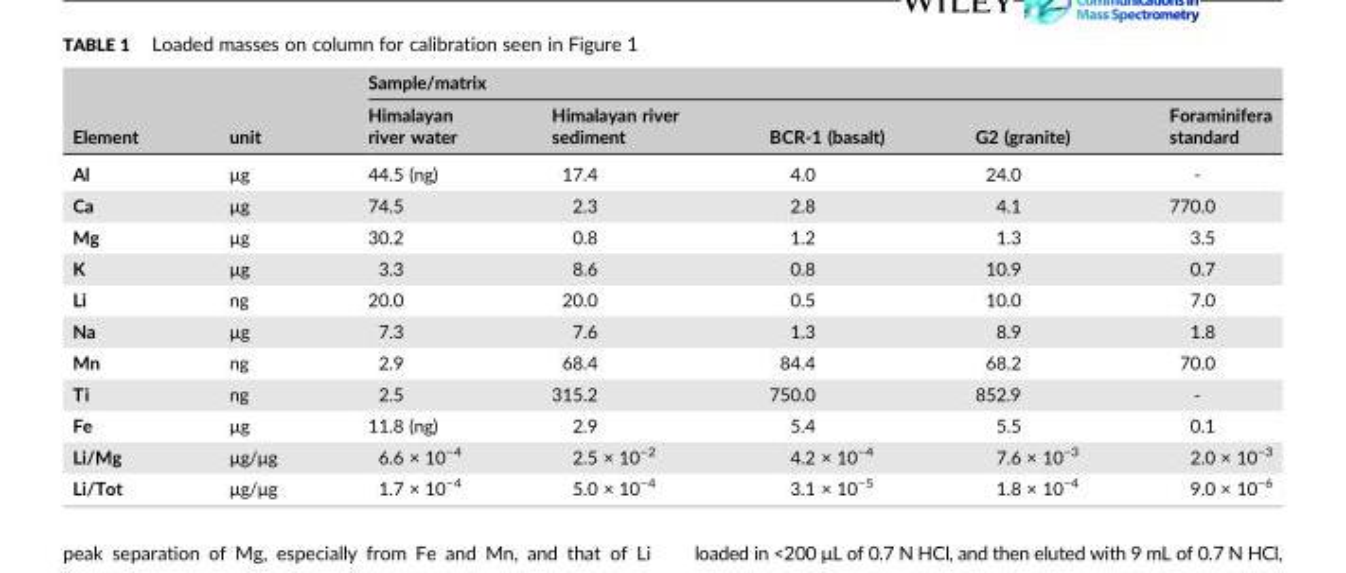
<table><thead><tr><td rowspan="2">Element</td><td rowspan="2">unit</td><td colspan="5">Sample/matrix</td></tr><tr><td>Himalayan river water</td><td>Himalayan river sediment</td><td>BCR‐1 (basalt)</td><td>G2 (granite)</td><td>Foraminifera standard</td></tr></thead><tbody><tr><td>Al</td><td>μg</td><td>44.5 (ng)</td><td>17.4</td><td>4.0</td><td>24.0</td><td>‐</td></tr><tr><td>Ca</td><td>μg</td><td>74.5</td><td>2.3</td><td>2.8</td><td>4.1</td><td>770.0</td></tr><tr><td>Mg</td><td>μg</td><td>30.2</td><td>0.8</td><td>1.2</td><td>1.3</td><td>3.5</td></tr><tr><td>K</td><td>μg</td><td>3.3</td><td>8.6</td><td>0.8</td><td>10.9</td><td>0.7</td></tr><tr><td>Li</td><td>ng</td><td>20.0</td><td>20.0</td><td>0.5</td><td>10.0</td><td>7.0</td></tr><tr><td>Na</td><td>μg</td><td>7.3</td><td>7.6</td><td>1.3</td><td>8.9</td><td>1.8</td></tr><tr><td>Mn</td><td>ng</td><td>2.9</td><td>68.4</td><td>84.4</td><td>68.2</td><td>70.0</td></tr><tr><td>Ti</td><td>ng</td><td>2.5</td><td>315.2</td><td>750.0</td><td>852.9</td><td>‐</td></tr><tr><td>Fe</td><td>μg</td><td>11.8 (ng)</td><td>2.9</td><td>5.4</td><td>5.5</td><td>0.1</td></tr><tr><td>Li/Mg</td><td>μg/μg</td><td>6.6 × 10<sup>−4</sup></td><td>2.5 × 10<sup>−2</sup></td><td>4.2 × 10<sup>−4</sup></td><td>7.6 × 10<sup>−3</sup></td><td>2.0 × 10<sup>−3</sup></td></tr><tr><td>Li/Tot</td><td>μg/μg</td><td>1.7 × 10<sup>−4</sup></td><td>5.0 × 10<sup>−4</sup></td><td>3.1 × 10<sup>−5</sup></td><td>1.8 × 10<sup>−4</sup></td><td>9.0 × 10<sup>−6</sup></td></tr></tbody></table>